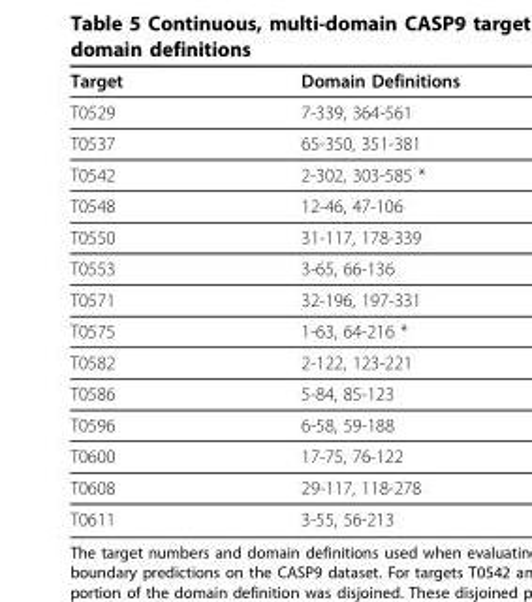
<table><thead><tr><td>Target</td><td>Domain Definitions</td></tr></thead><tbody><tr><td>T0529</td><td>7-339, 364-561</td></tr><tr><td>T0537</td><td>65-350, 351-381</td></tr><tr><td>T0542</td><td>2-302, 303-585 *</td></tr><tr><td>T0548</td><td>12-46, 47-106</td></tr><tr><td>T0550</td><td>31-117, 178-339</td></tr><tr><td>T0553</td><td>3-65, 66-136</td></tr><tr><td>T0571</td><td>32-196, 197-331</td></tr><tr><td>T0575</td><td>1-63, 64-216 *</td></tr><tr><td>T0582</td><td>2-122, 123-221</td></tr><tr><td>T0586</td><td>5-84, 85-123</td></tr><tr><td>T0596</td><td>6-58, 59-188</td></tr><tr><td>T0600</td><td>17-75, 76-122</td></tr><tr><td>T0608</td><td>29-117, 118-278</td></tr><tr><td>T0611</td><td>3-55, 56-213</td></tr></tbody></table>